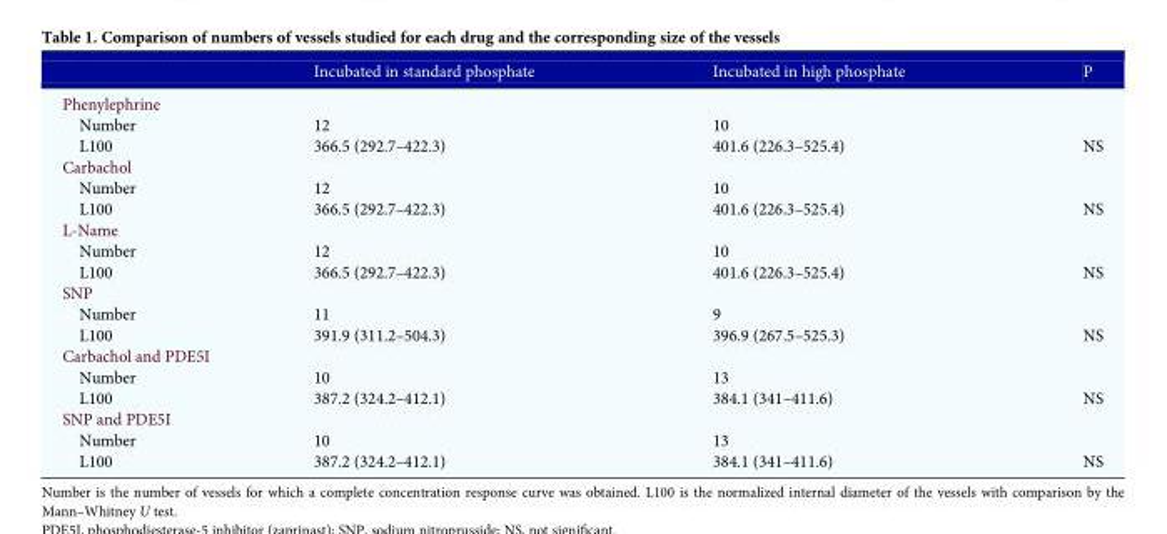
<table><thead><tr><td></td><td>Incubated in standard phosphate</td><td>Incubated in high phosphate</td><td>P</td></tr></thead><tbody><tr><td colspan="4">Phenylephrine</td></tr><tr><td>Number</td><td>12</td><td>10</td><td></td></tr><tr><td>L100</td><td>366.5 (292.7–422.3)</td><td>401.6 (226.3–525.4)</td><td>NS</td></tr><tr><td colspan="4">Carbachol</td></tr><tr><td>Number</td><td>12</td><td>10</td><td></td></tr><tr><td>L100</td><td>366.5 (292.7–422.3)</td><td>401.6 (226.3–525.4)</td><td>NS</td></tr><tr><td colspan="4">L-Name</td></tr><tr><td>Number</td><td>12</td><td>10</td><td></td></tr><tr><td>L100</td><td>366.5 (292.7–422.3)</td><td>401.6 (226.3–525.4)</td><td>NS</td></tr><tr><td colspan="4">SNP</td></tr><tr><td>Number</td><td>11</td><td>9</td><td></td></tr><tr><td>L100</td><td>391.9 (311.2–504.3)</td><td>396.9 (267.5–525.3)</td><td>NS</td></tr><tr><td colspan="4">Carbachol and PDE5I</td></tr><tr><td>Number</td><td>10</td><td>13</td><td></td></tr><tr><td>L100</td><td>387.2 (324.2–412.1)</td><td>384.1 (341–411.6)</td><td>NS</td></tr><tr><td colspan="4">SNP and PDE5I</td></tr><tr><td>Number</td><td>10</td><td>13</td><td></td></tr><tr><td>L100</td><td>387.2 (324.2–412.1)</td><td>384.1 (341–411.6)</td><td>NS</td></tr></tbody></table>